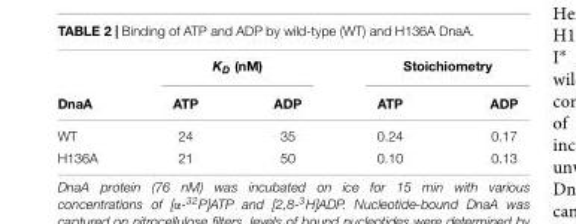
<table><thead><tr><td rowspan="2">DnaA</td><td colspan="2">K<sub>D</sub> (nM)</td><td colspan="2">Stoichiometry</td></tr><tr><td>ATP</td><td>ADP</td><td>ATP</td><td>ADP</td></tr></thead><tbody><tr><td>WT</td><td>24</td><td>35</td><td>0.24</td><td>0.17</td></tr><tr><td>H136A</td><td>21</td><td>50</td><td>0.10</td><td>0.13</td></tr></tbody></table>